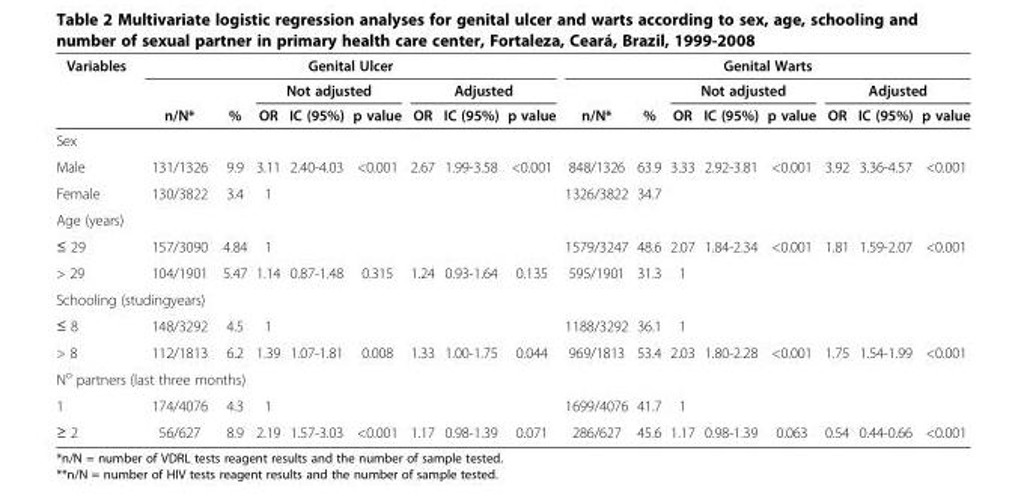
<table><thead><tr><td rowspan="3">Variables</td><td colspan="8">Genital Ulcer</td><td colspan="8">Genital Warts</td></tr><tr><td rowspan="2">n/N*</td><td rowspan="2">%</td><td colspan="3">Not adjusted</td><td colspan="3">Adjusted</td><td rowspan="2">n/N*</td><td rowspan="2">%</td><td colspan="3">Not adjusted</td><td colspan="3">Adjusted</td></tr><tr><td>OR</td><td>IC (95%)</td><td>p value</td><td>OR</td><td>IC (95%)</td><td>p value</td><td>OR</td><td>IC (95%)</td><td>p value</td><td>OR</td><td>IC (95%)</td><td>p value</td></tr></thead><tbody><tr><td colspan="17">Sex</td></tr><tr><td>Male</td><td>131/1326</td><td>9.9</td><td>3.11</td><td>2.40-4.03</td><td>&lt;0.001</td><td>2.67</td><td>1.99-3.58</td><td>&lt;0.001</td><td>848/1326</td><td>63.9</td><td>3.33</td><td>2.92-3.81</td><td>&lt;0.001</td><td>3.92</td><td>3.36-4.57</td><td>&lt;0.001</td></tr><tr><td>Female</td><td>130/3822</td><td>3.4</td><td>1</td><td></td><td></td><td></td><td></td><td></td><td>1326/3822</td><td>34.7</td><td></td><td></td><td></td><td></td><td></td><td></td></tr><tr><td colspan="17">Age (years)</td></tr><tr><td>≤ 29</td><td>157/3090</td><td>4.84</td><td>1</td><td></td><td></td><td></td><td></td><td></td><td>1579/3247</td><td>48.6</td><td>2.07</td><td>1.84-2.34</td><td>&lt;0.001</td><td>1.81</td><td>1.59-2.07</td><td>&lt;0.001</td></tr><tr><td>&gt; 29</td><td>104/1901</td><td>5.47</td><td>1.14</td><td>0.87-1.48</td><td>0.315</td><td>1.24</td><td>0.93-1.64</td><td>0.135</td><td>595/1901</td><td>31.3</td><td>1</td><td></td><td></td><td></td><td></td><td></td></tr><tr><td colspan="17">Schooling (studingyears)</td></tr><tr><td>≤ 8</td><td>148/3292</td><td>4.5</td><td>1</td><td></td><td></td><td></td><td></td><td></td><td>1188/3292</td><td>36.1</td><td>1</td><td></td><td></td><td></td><td></td><td></td></tr><tr><td>&gt; 8</td><td>112/1813</td><td>6.2</td><td>1.39</td><td>1.07-1.81</td><td>0.008</td><td>1.33</td><td>1.00-1.75</td><td>0.044</td><td>969/1813</td><td>53.4</td><td>2.03</td><td>1.80-2.28</td><td>&lt;0.001</td><td>1.75</td><td>1.54-1.99</td><td>&lt;0.001</td></tr><tr><td colspan="17">N<sup>o</sup> partners (last three months)</td></tr><tr><td>1</td><td>174/4076</td><td>4.3</td><td>1</td><td></td><td></td><td></td><td></td><td></td><td>1699/4076</td><td>41.7</td><td>1</td><td></td><td></td><td></td><td></td><td></td></tr><tr><td>≥ 2</td><td>56/627</td><td>8.9</td><td>2.19</td><td>1.57-3.03</td><td>&lt;0.001</td><td>1.17</td><td>0.98-1.39</td><td>0.071</td><td>286/627</td><td>45.6</td><td>1.17</td><td>0.98-1.39</td><td>0.063</td><td>0.54</td><td>0.44-0.66</td><td>&lt;0.001</td></tr></tbody></table>